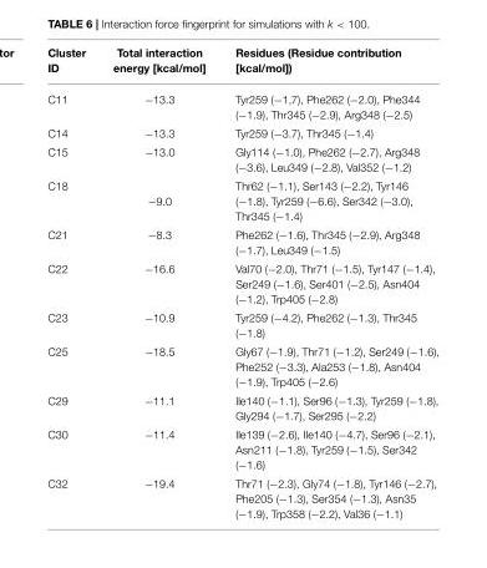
<table><thead><tr><td>Cluster ID</td><td>Total interaction energy [kcal/mol]</td><td>Residues (Residue contribution [kcal/mol])</td></tr></thead><tbody><tr><td>C11</td><td>−13.3</td><td>Tyr259 (−1,7), Phe262 (−2.0), Phe344 (−1.9), Thr345 (−2.9), Arg348 (−2.5)</td></tr><tr><td>C14</td><td>−13.3</td><td>Tyr259 (−3.7), Thr345 (−1.4)</td></tr><tr><td>C15</td><td>−13.0</td><td>Gly114 (−1.0), Phe262 (−2.7), Arg348 (−3.6), Leu349 (−2.8), Val352 (−1.2)</td></tr><tr><td>C18</td><td>−9.0</td><td>Thr62 (−1.1), Ser143 (−2.2), Tyr146 (−1.8), Tyr259 (−6.6), Ser342 (−3.0), Thr345 (−1.4)</td></tr><tr><td>C21</td><td>−8.3</td><td>Phe262 (−1.6), Thr345 (−2.9), Arg348 (−1.7), Leu349 (−1.5)</td></tr><tr><td>C22</td><td>−16.6</td><td>Val70 (−2.0), Thr71 (−1.5), Tyr147 (−1.4), Ser249 (−1.6), Ser401 (−2.5), Asn404 (−1.2), Trp405 (−2.8)</td></tr><tr><td>C23</td><td>−10.9</td><td>Tyr259 (−4.2), Phe262 (−1.3), Thr345 (−1.8)</td></tr><tr><td>C25</td><td>−18.5</td><td>Gly67 (−1.9), Thr71 (−1.2), Ser249 (−1.6), Phe252 (−3.3), Ala253 (−1.8), Asn404 (−1.9), Trp405 (−2.6)</td></tr><tr><td>C29</td><td>−11.1</td><td>Ile140 (−1.1), Ser96 (−1.3), Tyr259 (−1.8), Gly294 (−1.7), Ser295 (−2.2)</td></tr><tr><td>C30</td><td>−11.4</td><td>Ile139 (−2.6), Ile140 (−4.7), Ser96 (−2.1), Asn211 (−1.8), Tyr259 (−1.5), Ser342 (−1.6)</td></tr><tr><td>C32</td><td>−19.4</td><td>Thr71 (−2.3), Gly74 (−1.8), Tyr146 (−2.7), Phe205 (−1.3), Ser354 (−1.3), Asn35 (−1.9), Trp358 (−2.2), Val36 (−1.1)</td></tr></tbody></table>